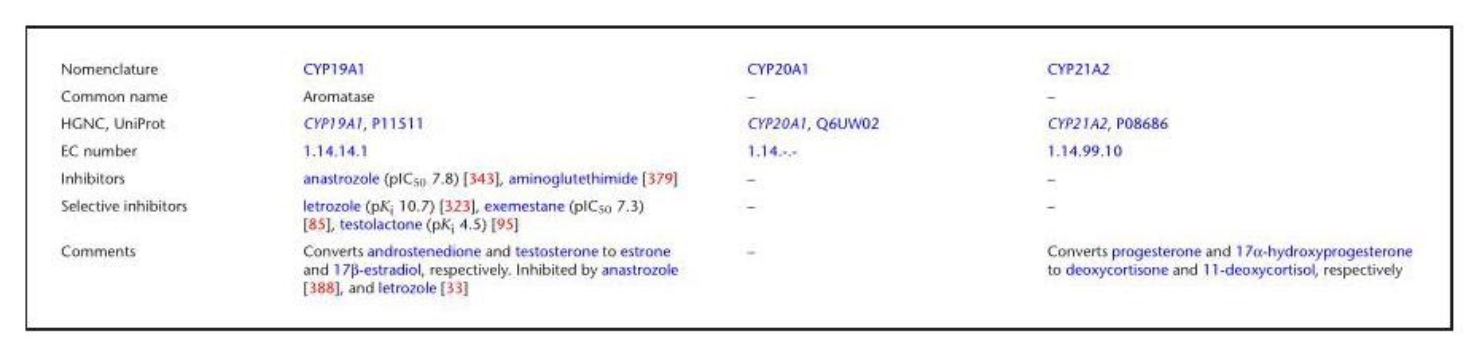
<table><tbody><tr><td>Nomenclature</td><td>CYP19A1</td><td>CYP20A1</td><td>CYP21A2</td></tr><tr><td>Common name</td><td>Aromatase</td><td>–</td><td>–</td></tr><tr><td>HGNC, UniProt</td><td>CYP19A1, P11511</td><td>CYP20A1, Q6UW02</td><td>CYP21A2, P08686</td></tr><tr><td>EC number</td><td>1.14.14.1</td><td>1.14.-.-</td><td>1.14.99.10</td></tr><tr><td>Inhibitors</td><td>anastrozole (pIC<sub>50</sub> 7.8) [343], aminoglutethimide [379]</td><td>–</td><td>–</td></tr><tr><td>Selective inhibitors</td><td>letrozole (pK<sub>i</sub> 10.7) [323], exemestane (pIC<sub>50</sub> 7.3) [85], testolactone (pK<sub>i</sub> 4.5) [95]</td><td>–</td><td>–</td></tr><tr><td>Comments</td><td>Converts androstenedione and testosterone to estrone and 17β-estradiol, respectively. Inhibited by anastrozole [388], and letrozole [33]</td><td>–</td><td>Converts progesterone and 17α-hydroxyprogesterone to deoxycortisone and 11-deoxycortisol, respectively</td></tr></tbody></table>